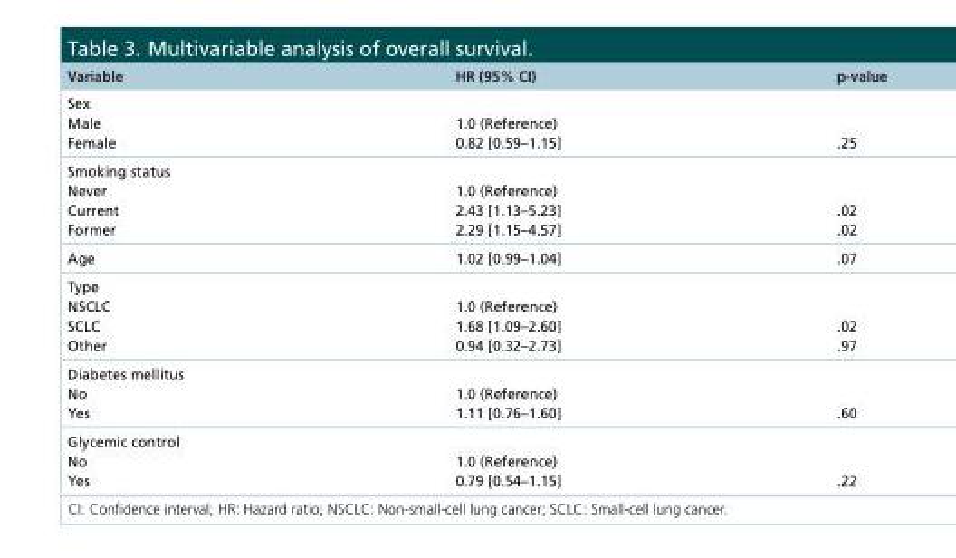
<table><thead><tr><td>Variable</td><td>HR (95% CI)</td><td>p-value</td></tr></thead><tbody><tr><td>Sex Male Female</td><td>1.0 (Reference) 0.82 [0.59–1.15]</td><td>.25</td></tr><tr><td>Smoking status Never Current Former</td><td>1.0 (Reference) 2.43 [1.13–5.23] 2.29 [1.15–4.57]</td><td>.02 .02</td></tr><tr><td>Age</td><td>1.02 [0.99–1.04]</td><td>.07</td></tr><tr><td>Type NSCLC SCLC Other</td><td>1.0 (Reference) 1.68 [1.09–2.60] 0.94 [0.32–2.73]</td><td>.02 .97</td></tr><tr><td>Diabetes mellitus No Yes</td><td>1.0 (Reference) 1.11 [0.76–1.60]</td><td>.60</td></tr><tr><td>Glycemic control No Yes</td><td>1.0 (Reference) 0.79 [0.54–1.15]</td><td>.22</td></tr></tbody></table>